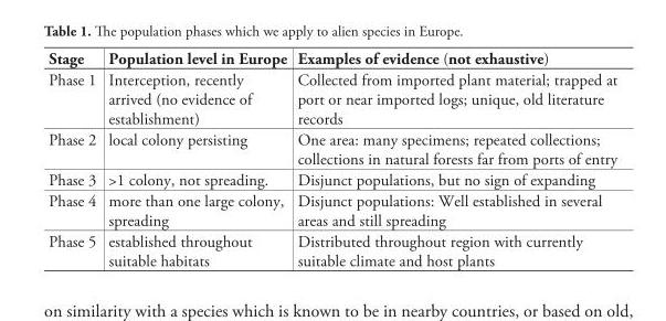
<table><thead><tr><td>Stage</td><td>Population level in Europe</td><td>Examples of evidence (not exhaustive)</td></tr></thead><tbody><tr><td>Phase 1</td><td>Interception, recently arrived (no evidence of establishment)</td><td>Collected from imported plant material; trapped at port or near imported logs; unique, old literature records</td></tr><tr><td>Phase 2</td><td>local colony persisting</td><td>One area: many specimens; repeated collections; collections in natural forests far from ports of entry</td></tr><tr><td>Phase 3</td><td>&gt;1 colony, not spreading.</td><td>Disjunct populations, but no sign of expanding</td></tr><tr><td>Phase 4</td><td>more than one large colony, spreading</td><td>Disjunct populations: Well established in several areas and still spreading</td></tr><tr><td>Phase 5</td><td>established throughout suitable habitats</td><td>Distributed throughout region with currently suitable climate and host plants</td></tr></tbody></table>